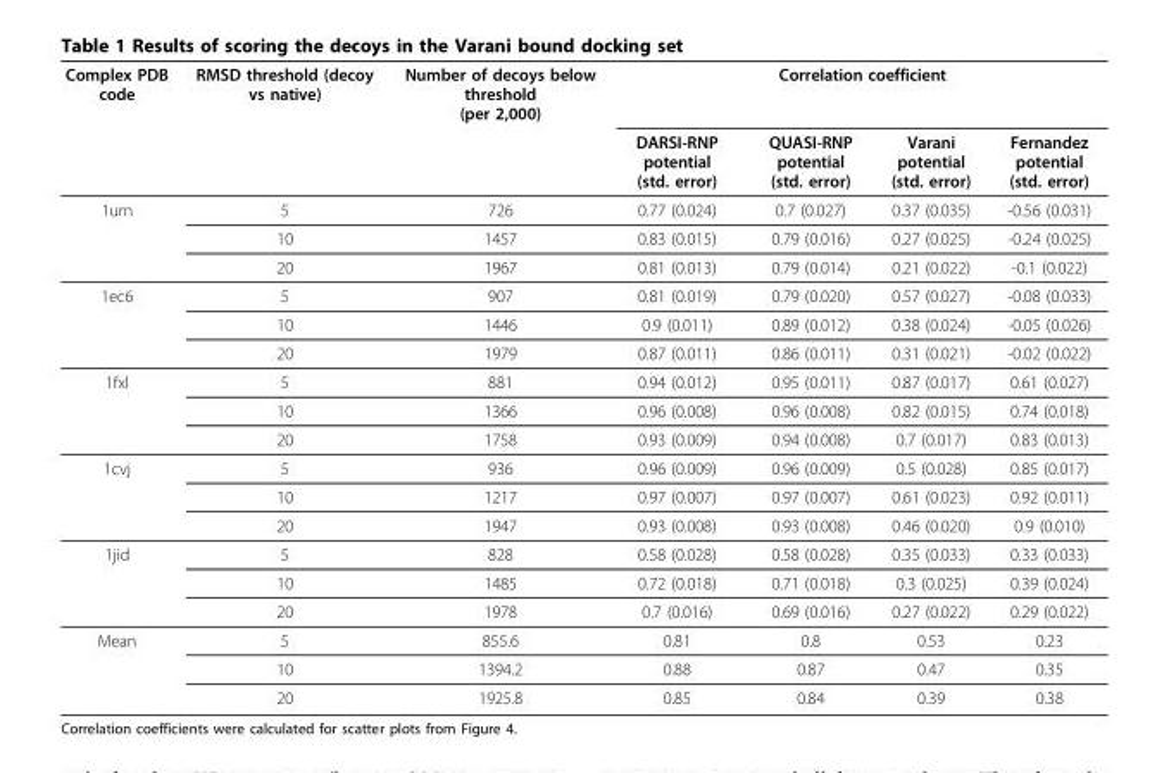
<table><thead><tr><td rowspan="2">Complex PDB code</td><td rowspan="2">RMSD threshold (decoy vs native)</td><td rowspan="2">Number of decoys below threshold (per 2,000)</td><td colspan="4">Correlation coefficient</td></tr><tr><td>DARSI-RNP potential (std. error)</td><td>QUASI-RNP potential (std. error)</td><td>Varani potential (std. error)</td><td>Fernandez potential (std. error)</td></tr></thead><tbody><tr><td rowspan="3">1urn</td><td>5</td><td>726</td><td>0.77 (0.024)</td><td>0.7 (0.027)</td><td>0.37 (0.035)</td><td>-0.56 (0.031)</td></tr><tr><td>10</td><td>1457</td><td>0.83 (0.015)</td><td>0.79 (0.016)</td><td>0.27 (0.025)</td><td>-0.24 (0.025)</td></tr><tr><td>20</td><td>1967</td><td>0.81 (0.013)</td><td>0.79 (0.014)</td><td>0.21 (0.022)</td><td>-0.1 (0.022)</td></tr><tr><td rowspan="3">1ec6</td><td>5</td><td>907</td><td>0.81 (0.019)</td><td>0.79 (0.020)</td><td>0.57 (0.027)</td><td>-0.08 (0.033)</td></tr><tr><td>10</td><td>1446</td><td>0.9 (0.011)</td><td>0.89 (0.012)</td><td>0.38 (0.024)</td><td>-0.05 (0.026)</td></tr><tr><td>20</td><td>1979</td><td>0.87 (0.011)</td><td>0.86 (0.011)</td><td>0.31 (0.021)</td><td>-0.02 (0.022)</td></tr><tr><td rowspan="3">1fxl</td><td>5</td><td>881</td><td>0.94 (0.012)</td><td>0.95 (0.011)</td><td>0.87 (0.017)</td><td>0.61 (0.027)</td></tr><tr><td>10</td><td>1366</td><td>0.96 (0.008)</td><td>0.96 (0.008)</td><td>0.82 (0.015)</td><td>0.74 (0.018)</td></tr><tr><td>20</td><td>1758</td><td>0.93 (0.009)</td><td>0.94 (0.008)</td><td>0.7 (0.017)</td><td>0.83 (0.013)</td></tr><tr><td rowspan="3">1cvj</td><td>5</td><td>936</td><td>0.96 (0.009)</td><td>0.96 (0.009)</td><td>0.5 (0.028)</td><td>0.85 (0.017)</td></tr><tr><td>10</td><td>1217</td><td>0.97 (0.007)</td><td>0.97 (0.007)</td><td>0.61 (0.023)</td><td>0.92 (0.011)</td></tr><tr><td>20</td><td>1947</td><td>0.93 (0.008)</td><td>0.93 (0.008)</td><td>0.46 (0.020)</td><td>0.9 (0.010)</td></tr><tr><td rowspan="3">1jid</td><td>5</td><td>828</td><td>0.58 (0.028)</td><td>0.58 (0.028)</td><td>0.35 (0.033)</td><td>0.33 (0.033)</td></tr><tr><td>10</td><td>1485</td><td>0.72 (0.018)</td><td>0.71 (0.018)</td><td>0.3 (0.025)</td><td>0.39 (0.024)</td></tr><tr><td>20</td><td>1978</td><td>0.7 (0.016)</td><td>0.69 (0.016)</td><td>0.27 (0.022)</td><td>0.29 (0.022)</td></tr><tr><td rowspan="3">Mean</td><td>5</td><td>855.6</td><td>0.81</td><td>0.8</td><td>0.53</td><td>0.23</td></tr><tr><td>10</td><td>1394.2</td><td>0.88</td><td>0.87</td><td>0.47</td><td>0.35</td></tr><tr><td>20</td><td>1925.8</td><td>0.85</td><td>0.84</td><td>0.39</td><td>0.38</td></tr></tbody></table>